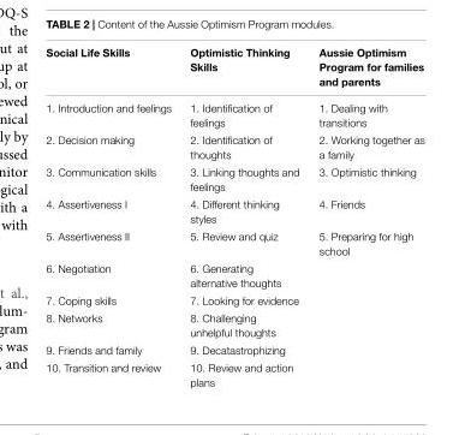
<table><thead><tr><td>Social Life Skills</td><td>Optimistic Thinking Skills</td><td>Aussie Optimism Program for families and parents</td></tr></thead><tbody><tr><td>1. Introduction and feelings</td><td>1. Identification of feelings</td><td>1. Dealing with transitions</td></tr><tr><td>2. Decision making</td><td>2. Identification of thoughts</td><td>2. Working together as a family</td></tr><tr><td>3. Communication skills</td><td>3. Linking thoughts and feelings</td><td>3. Optimistic thinking</td></tr><tr><td>4. Assertiveness I</td><td>4. Different thinking styles</td><td>4. Friends</td></tr><tr><td>5. Assertiveness II</td><td>5. Review and quiz</td><td>5. Preparing for high school</td></tr><tr><td>6. Negotiation</td><td>6. Generating alternative thoughts</td><td></td></tr><tr><td>7. Coping skills</td><td>7. Looking for evidence</td><td></td></tr><tr><td>8. Networks</td><td>8. Challenging unhelpful thoughts</td><td></td></tr><tr><td>9. Friends and family</td><td>9. Decatastrophizing</td><td></td></tr><tr><td>10. Transition and review</td><td>10. Review and action plans</td><td></td></tr></tbody></table>